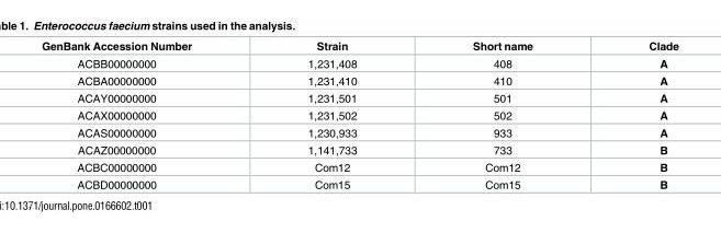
<table><thead><tr><td>GenBank Accession Number</td><td>Strain</td><td>Short name</td><td>Clade</td></tr></thead><tbody><tr><td>ACBB00000000</td><td>1,231,408</td><td>408</td><td>A</td></tr><tr><td>ACBA00000000</td><td>1,231,410</td><td>410</td><td>A</td></tr><tr><td>ACAY00000000</td><td>1,231,501</td><td>501</td><td>A</td></tr><tr><td>ACAX00000000</td><td>1,231,502</td><td>502</td><td>A</td></tr><tr><td>ACAS00000000</td><td>1,230,933</td><td>933</td><td>A</td></tr><tr><td>ACAZ00000000</td><td>1,141,733</td><td>733</td><td>B</td></tr><tr><td>ACBC00000000</td><td>Com12</td><td>Com12</td><td>B</td></tr><tr><td>ACBD00000000</td><td>Com15</td><td>Com15</td><td>B</td></tr></tbody></table>